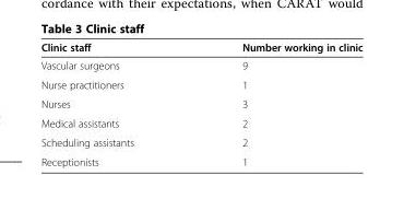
<table><thead><tr><td>Clinic staff</td><td>Number working in clinic</td></tr></thead><tbody><tr><td>Vascular surgeons</td><td>9</td></tr><tr><td>Nurse practitioners</td><td>1</td></tr><tr><td>Nurses</td><td>3</td></tr><tr><td>Medical assistants</td><td>2</td></tr><tr><td>Scheduling assistants</td><td>2</td></tr><tr><td>Receptionists</td><td>1</td></tr></tbody></table>